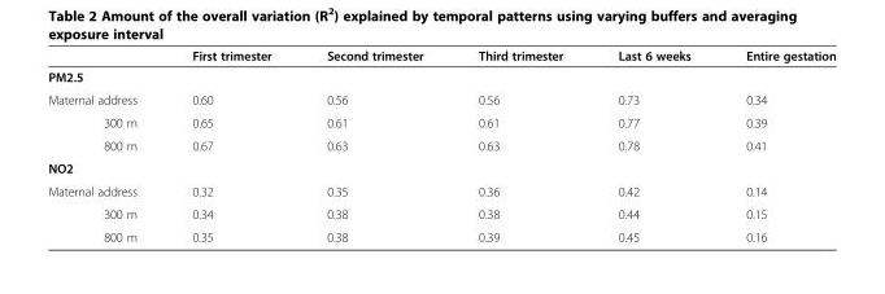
<table><thead><tr><td></td><td>First trimester</td><td>Second trimester</td><td>Third trimester</td><td>Last 6 weeks</td><td>Entire gestation</td></tr></thead><tbody><tr><td colspan="6">PM2.5</td></tr><tr><td>Maternal address</td><td>0.60</td><td>0.56</td><td>0.56</td><td>0.73</td><td>0.34</td></tr><tr><td>300 m</td><td>0.65</td><td>0.61</td><td>0.61</td><td>0.77</td><td>0.39</td></tr><tr><td>800 m</td><td>0.67</td><td>0.63</td><td>0.63</td><td>0.78</td><td>0.41</td></tr><tr><td colspan="6">NO2</td></tr><tr><td>Maternal address</td><td>0.32</td><td>0.35</td><td>0.36</td><td>0.42</td><td>0.14</td></tr><tr><td>300 m</td><td>0.34</td><td>0.38</td><td>0.38</td><td>0.44</td><td>0.15</td></tr><tr><td>800 m</td><td>0.35</td><td>0.38</td><td>0.39</td><td>0.45</td><td>0.16</td></tr></tbody></table>